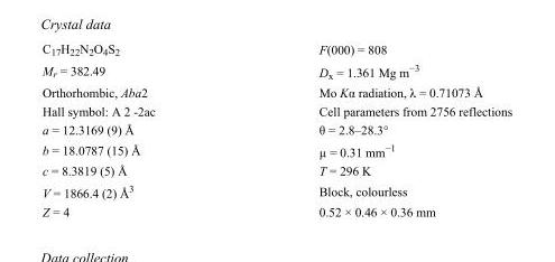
<table><tbody><tr><td>C<sub>17</sub>H<sub>22</sub>N<sub>2</sub>O<sub>4</sub>S<sub>2</sub></td><td>F(000) = 808</td></tr><tr><td>M<sub>r</sub> = 382.49</td><td>D<sub>x</sub> = 1.361 Mg m<sup>−3</sup></td></tr><tr><td>Orthorhombic, Aba2</td><td>Mo Kα radiation, λ = 0.71073 Å</td></tr><tr><td>Hall symbol: A 2 -2ac</td><td>Cell parameters from 2756 reflections</td></tr><tr><td>a = 12.3169 (9) Å</td><td>θ = 2.8–28.3°</td></tr><tr><td>b = 18.0787 (15) Å</td><td>µ = 0.31 mm<sup>−1</sup></td></tr><tr><td>c = 8.3819 (5) Å</td><td>T = 296 K</td></tr><tr><td>V = 1866.4 (2) Å<sup>3</sup></td><td>Block, colourless</td></tr><tr><td>Z = 4</td><td>0.52 × 0.46 × 0.36 mm</td></tr></tbody></table>